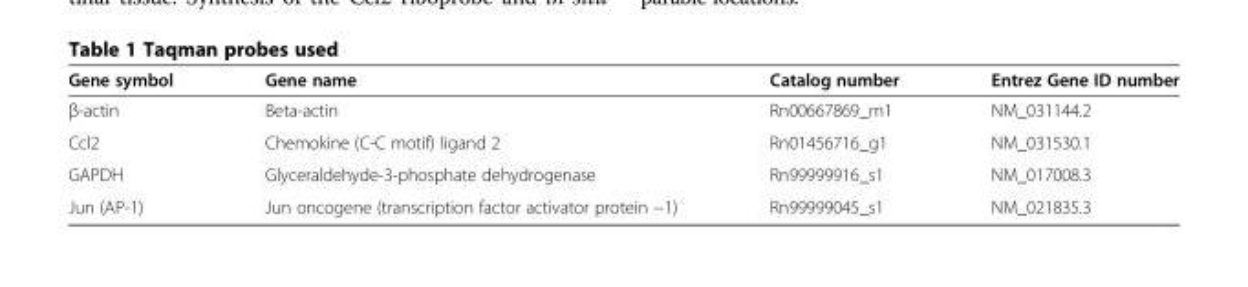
<table><thead><tr><td>Gene symbol</td><td>Gene name</td><td>Catalog number</td><td>Entrez Gene ID number</td></tr></thead><tbody><tr><td>β-actin</td><td>Beta-actin</td><td>Rn00667869_m1</td><td>NM_031144.2</td></tr><tr><td>Ccl2</td><td>Chemokine (C-C motif) ligand 2</td><td>Rn01456716_g1</td><td>NM_031530.1</td></tr><tr><td>GAPDH</td><td>Glyceraldehyde-3-phosphate dehydrogenase</td><td>Rn99999916_s1</td><td>NM_017008.3</td></tr><tr><td>Jun (AP-1)</td><td>Jun oncogene (transcription factor activator protein −1)</td><td>Rn99999045_s1</td><td>NM_021835.3</td></tr></tbody></table>